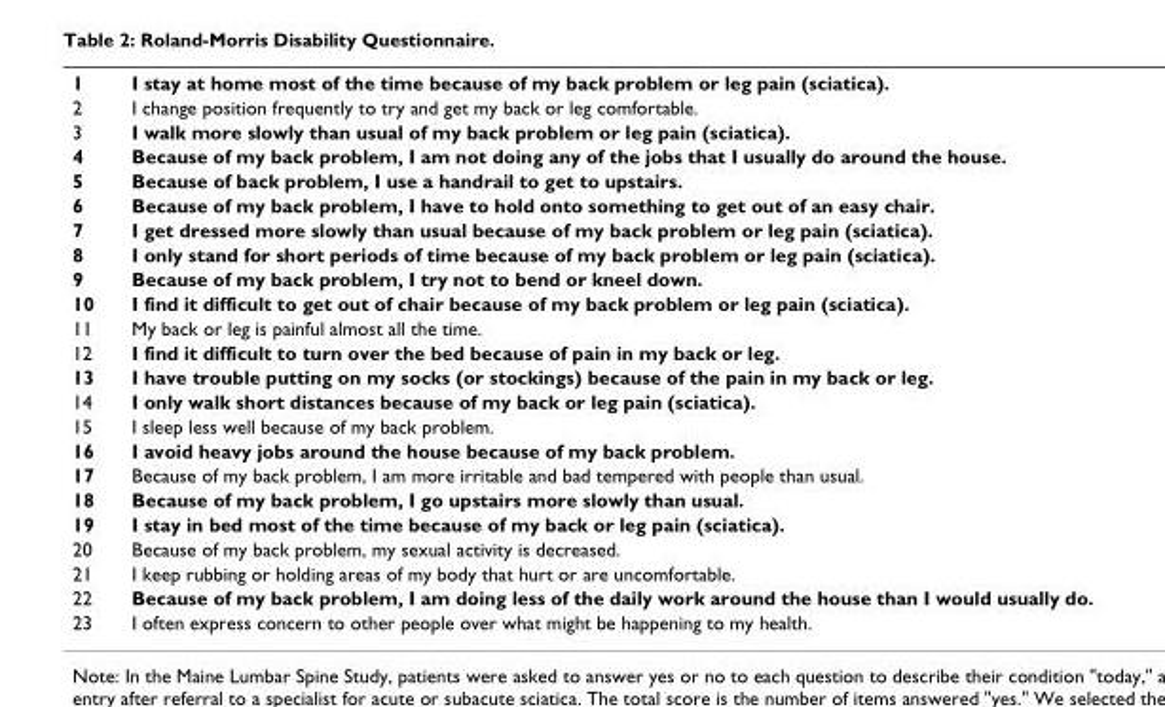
<table><tbody><tr><td>1</td><td>I stay at home most of the time because of my back problem or leg pain (sciatica).</td></tr><tr><td>2</td><td>I change position frequently to try and get my back or leg comfortable.</td></tr><tr><td>3</td><td>I walk more slowly than usual of my back problem or leg pain (sciatica).</td></tr><tr><td>4</td><td>Because of my back problem, I am not doing any of the jobs that I usually do around the house.</td></tr><tr><td>5</td><td>Because of back problem, I use a handrail to get to upstairs.</td></tr><tr><td>6</td><td>Because of my back problem, I have to hold onto something to get out of an easy chair.</td></tr><tr><td>7</td><td>I get dressed more slowly than usual because of my back problem or leg pain (sciatica).</td></tr><tr><td>8</td><td>I only stand for short periods of time because of my back problem or leg pain (sciatica).</td></tr><tr><td>9</td><td>Because of my back problem, I try not to bend or kneel down.</td></tr><tr><td>10</td><td>I find it difficult to get out of chair because of my back problem or leg pain (sciatica).</td></tr><tr><td>11</td><td>My back or leg is painful almost all the time.</td></tr><tr><td>12</td><td>I find it difficult to turn over the bed because of pain in my back or leg.</td></tr><tr><td>13</td><td>I have trouble putting on my socks (or stockings) because of the pain in my back or leg.</td></tr><tr><td>14</td><td>I only walk short distances because of my back or leg pain (sciatica).</td></tr><tr><td>15</td><td>I sleep less well because of my back problem.</td></tr><tr><td>16</td><td>I avoid heavy jobs around the house because of my back problem.</td></tr><tr><td>17</td><td>Because of my back problem, I am more irritable and bad tempered with people than usual.</td></tr><tr><td>18</td><td>Because of my back problem, I go upstairs more slowly than usual.</td></tr><tr><td>19</td><td>I stay in bed most of the time because of my back or leg pain (sciatica).</td></tr><tr><td>20</td><td>Because of my back problem, my sexual activity is decreased.</td></tr><tr><td>21</td><td>I keep rubbing or holding areas of my body that hurt or are uncomfortable.</td></tr><tr><td>22</td><td>Because of my back problem, I am doing less of the daily work around the house than I would usually do.</td></tr><tr><td>23</td><td>I often express concern to other people over what might be happening to my health.</td></tr></tbody></table>